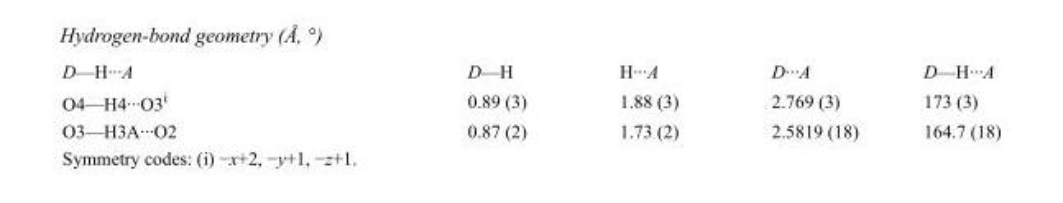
<table><tbody><tr><td>D—H···A</td><td>D—H</td><td>H···A</td><td>D···A</td><td>D—H···A</td></tr><tr><td>O4—H4···O3<sup>i</sup></td><td>0.89 (3)</td><td>1.88 (3)</td><td>2.769 (3)</td><td>173 (3)</td></tr><tr><td>O3—H3A···O2</td><td>0.87 (2)</td><td>1.73 (2)</td><td>2.5819 (18)</td><td>164.7 (18)</td></tr></tbody></table>